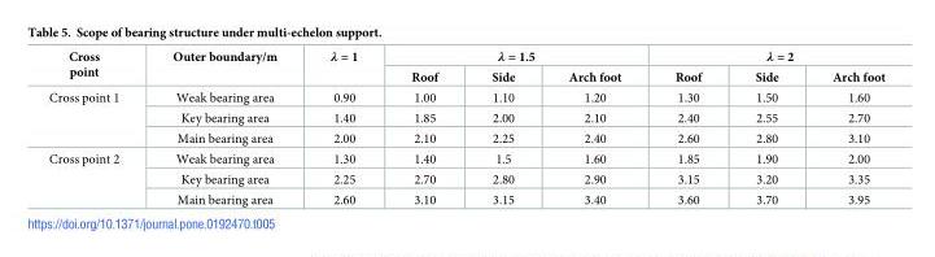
<table><thead><tr><td rowspan="2">Cross point</td><td rowspan="2">Outer boundary/m</td><td rowspan="2">λ = 1</td><td colspan="3">λ = 1.5</td><td colspan="3">λ = 2</td></tr><tr><td>Roof</td><td>Side</td><td>Arch foot</td><td>Roof</td><td>Side</td><td>Arch foot</td></tr></thead><tbody><tr><td rowspan="3">Cross point 1</td><td>Weak bearing area</td><td>0.90</td><td>1.00</td><td>1.10</td><td>1.20</td><td>1.30</td><td>1.50</td><td>1.60</td></tr><tr><td>Key bearing area</td><td>1.40</td><td>1.85</td><td>2.00</td><td>2.10</td><td>2.40</td><td>2.55</td><td>2.70</td></tr><tr><td>Main bearing area</td><td>2.00</td><td>2.10</td><td>2.25</td><td>2.40</td><td>2.60</td><td>2.80</td><td>3.10</td></tr><tr><td rowspan="3">Cross point 2</td><td>Weak bearing area</td><td>1.30</td><td>1.40</td><td>1.5</td><td>1.60</td><td>1.85</td><td>1.90</td><td>2.00</td></tr><tr><td>Key bearing area</td><td>2.25</td><td>2.70</td><td>2.80</td><td>2.90</td><td>3.15</td><td>3.20</td><td>3.35</td></tr><tr><td>Main bearing area</td><td>2.60</td><td>3.10</td><td>3.15</td><td>3.40</td><td>3.60</td><td>3.70</td><td>3.95</td></tr></tbody></table>